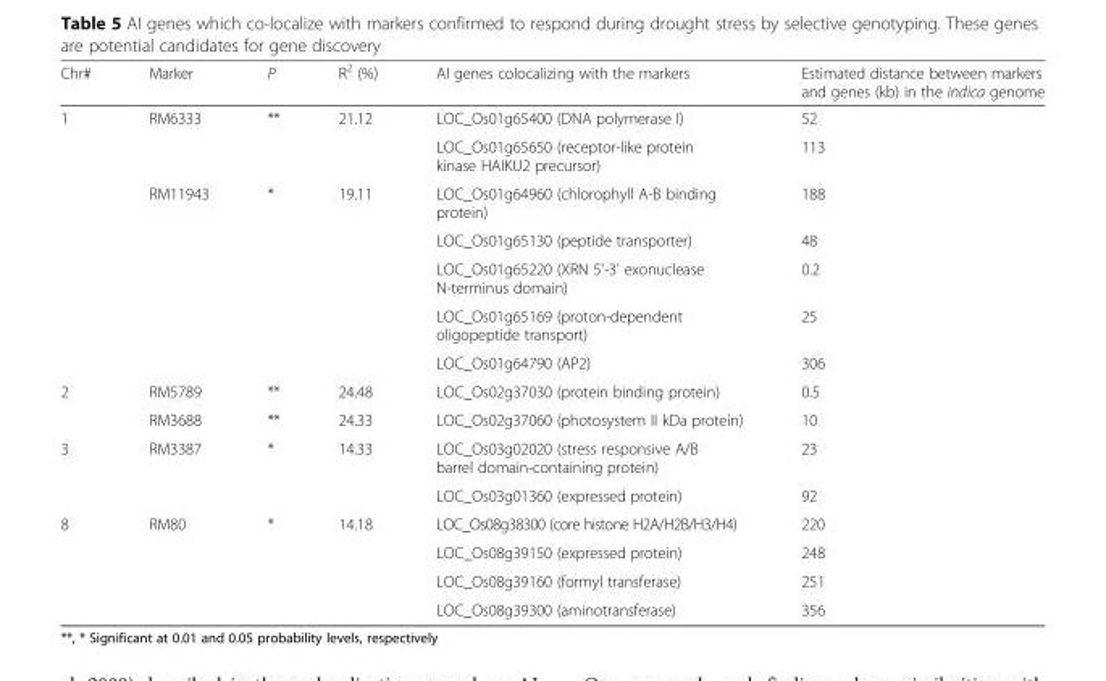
<table><thead><tr><td>Chr#</td><td>Marker</td><td>P</td><td>R<sup>2</sup> (%)</td><td>AI genes colocalizing with the markers</td><td>Estimated distance between markers and genes (kb) in the indica genome</td></tr></thead><tbody><tr><td rowspan="7">1</td><td rowspan="2">RM6333</td><td rowspan="2">**</td><td rowspan="2">21.12</td><td>LOC_Os01g65400 (DNA polymerase I)</td><td>52</td></tr><tr><td>LOC_Os01g65650 (receptor-like protein kinase HAIKU2 precursor)</td><td>113</td></tr><tr><td rowspan="5">RM11943</td><td rowspan="5">*</td><td rowspan="5">19.11</td><td>LOC_Os01g64960 (chlorophyll A-B binding protein)</td><td>188</td></tr><tr><td>LOC_Os01g65130 (peptide transporter)</td><td>48</td></tr><tr><td>LOC_Os01g65220 (XRN 5&#x27;-3&#x27; exonuclease N-terminus domain)</td><td>0.2</td></tr><tr><td>LOC_Os01g65169 (proton-dependent oligopeptide transport)</td><td>25</td></tr><tr><td>LOC_Os01g64790 (AP2)</td><td>306</td></tr><tr><td rowspan="2">2</td><td>RM5789</td><td>**</td><td>24.48</td><td>LOC_Os02g37030 (protein binding protein)</td><td>0.5</td></tr><tr><td>RM3688</td><td>**</td><td>24.33</td><td>LOC_Os02g37060 (photosystem II kDa protein)</td><td>10</td></tr><tr><td rowspan="2">3</td><td rowspan="2">RM3387</td><td rowspan="2">*</td><td rowspan="2">14.33</td><td>LOC_Os03g02020 (stress responsive A/B barrel domain-containing protein)</td><td>23</td></tr><tr><td>LOC_Os03g01360 (expressed protein)</td><td>92</td></tr><tr><td rowspan="4">8</td><td rowspan="4">RM80</td><td rowspan="4">*</td><td rowspan="4">14.18</td><td>LOC_Os08g38300 (core histone H2A/H2B/H3/H4)</td><td>220</td></tr><tr><td>LOC_Os08g39150 (expressed protein)</td><td>248</td></tr><tr><td>LOC_Os08g39160 (formyl transferase)</td><td>251</td></tr><tr><td>LOC_Os08g39300 (aminotransferase)</td><td>356</td></tr></tbody></table>